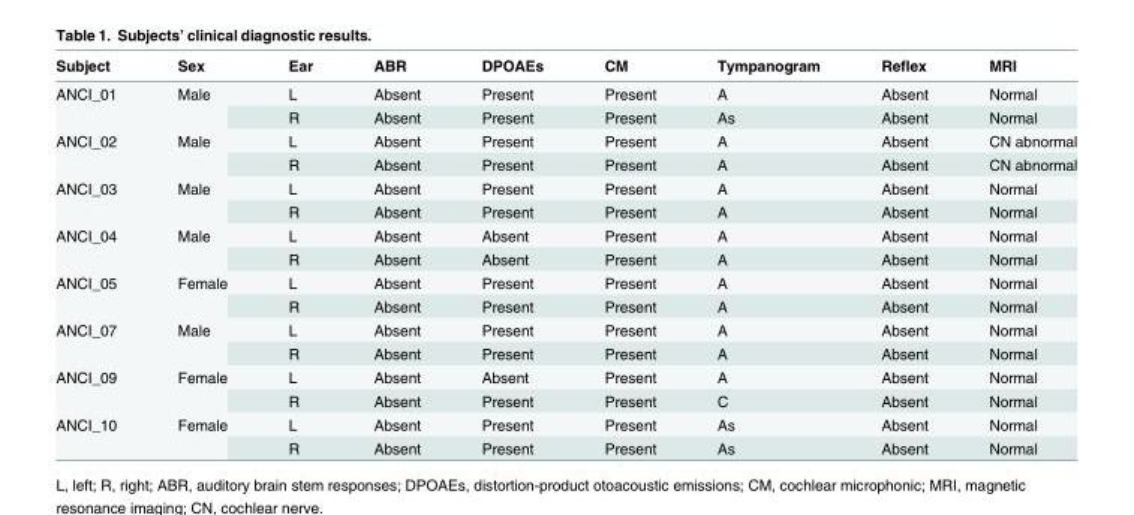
<table><thead><tr><td>Subject</td><td>Sex</td><td>Ear</td><td>ABR</td><td>DPOAEs</td><td>CM</td><td>Tympanogram</td><td>Reflex</td><td>MRI</td></tr></thead><tbody><tr><td rowspan="2">ANCI_01</td><td rowspan="2">Male</td><td>L</td><td>Absent</td><td>Present</td><td>Present</td><td>A</td><td>Absent</td><td>Normal</td></tr><tr><td>R</td><td>Absent</td><td>Present</td><td>Present</td><td>As</td><td>Absent</td><td>Normal</td></tr><tr><td rowspan="2">ANCI_02</td><td rowspan="2">Male</td><td>L</td><td>Absent</td><td>Present</td><td>Present</td><td>A</td><td>Absent</td><td>CN abnormal</td></tr><tr><td>R</td><td>Absent</td><td>Present</td><td>Present</td><td>A</td><td>Absent</td><td>CN abnormal</td></tr><tr><td rowspan="2">ANCI_03</td><td rowspan="2">Male</td><td>L</td><td>Absent</td><td>Present</td><td>Present</td><td>A</td><td>Absent</td><td>Normal</td></tr><tr><td>R</td><td>Absent</td><td>Present</td><td>Present</td><td>A</td><td>Absent</td><td>Normal</td></tr><tr><td rowspan="2">ANCI_04</td><td rowspan="2">Male</td><td>L</td><td>Absent</td><td>Absent</td><td>Present</td><td>A</td><td>Absent</td><td>Normal</td></tr><tr><td>R</td><td>Absent</td><td>Absent</td><td>Present</td><td>A</td><td>Absent</td><td>Normal</td></tr><tr><td rowspan="2">ANCI_05</td><td rowspan="2">Female</td><td>L</td><td>Absent</td><td>Present</td><td>Present</td><td>A</td><td>Absent</td><td>Normal</td></tr><tr><td>R</td><td>Absent</td><td>Present</td><td>Present</td><td>A</td><td>Absent</td><td>Normal</td></tr><tr><td rowspan="2">ANCI_07</td><td rowspan="2">Male</td><td>L</td><td>Absent</td><td>Present</td><td>Present</td><td>A</td><td>Absent</td><td>Normal</td></tr><tr><td>R</td><td>Absent</td><td>Present</td><td>Present</td><td>A</td><td>Absent</td><td>Normal</td></tr><tr><td rowspan="2">ANCI_09</td><td rowspan="2">Female</td><td>L</td><td>Absent</td><td>Absent</td><td>Present</td><td>A</td><td>Absent</td><td>Normal</td></tr><tr><td>R</td><td>Absent</td><td>Present</td><td>Present</td><td>C</td><td>Absent</td><td>Normal</td></tr><tr><td rowspan="2">ANCI_10</td><td rowspan="2">Female</td><td>L</td><td>Absent</td><td>Present</td><td>Present</td><td>As</td><td>Absent</td><td>Normal</td></tr><tr><td>R</td><td>Absent</td><td>Present</td><td>Present</td><td>As</td><td>Absent</td><td>Normal</td></tr></tbody></table>